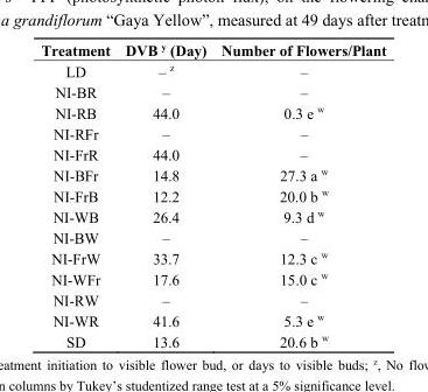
<table><thead><tr><td>Treatment</td><td>DVB <sup>y</sup> (Day)</td><td>Number of Flowers/Plant</td></tr></thead><tbody><tr><td>LD</td><td>– <sup>z</sup></td><td>–</td></tr><tr><td>NI-BR</td><td>–</td><td>–</td></tr><tr><td>NI-RB</td><td>44.0</td><td>0.3 e <sup>w</sup></td></tr><tr><td>NI-RFr</td><td>–</td><td>–</td></tr><tr><td>NI-FrR</td><td>44.0</td><td>–</td></tr><tr><td>NI-BFr</td><td>14.8</td><td>27.3 a <sup>w</sup></td></tr><tr><td>NI-FrB</td><td>12.2</td><td>20.0 b <sup>w</sup></td></tr><tr><td>NI-WB</td><td>26.4</td><td>9.3 d <sup>w</sup></td></tr><tr><td>NI-BW</td><td>–</td><td>–</td></tr><tr><td>NI-FrW</td><td>33.7</td><td>12.3 c <sup>w</sup></td></tr><tr><td>NI-WFr</td><td>17.6</td><td>15.0 c <sup>w</sup></td></tr><tr><td>NI-RW</td><td>–</td><td>–</td></tr><tr><td>NI-WR</td><td>41.6</td><td>5.3 e <sup>w</sup></td></tr><tr><td>SD</td><td>13.6</td><td>20.6 b <sup>w</sup></td></tr></tbody></table>